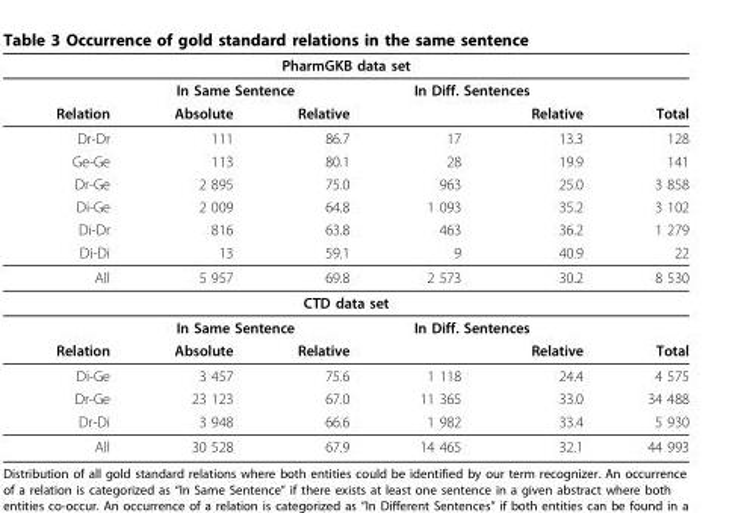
<table><thead><tr><td colspan="6">PharmGKB data set</td></tr><tr><td rowspan="2">Relation</td><td colspan="2">In Same Sentence</td><td colspan="2">In Diff. Sentences</td><td rowspan="2">Total</td></tr><tr><td>Absolute</td><td>Relative</td><td></td><td>Relative</td></tr></thead><tbody><tr><td>Dr-Dr</td><td>111</td><td>86.7</td><td>17</td><td>13.3</td><td>128</td></tr><tr><td>Ge-Ge</td><td>113</td><td>80.1</td><td>28</td><td>19.9</td><td>141</td></tr><tr><td>Dr-Ge</td><td>2 895</td><td>75.0</td><td>963</td><td>25.0</td><td>3 858</td></tr><tr><td>Di-Ge</td><td>2 009</td><td>64.8</td><td>1 093</td><td>35.2</td><td>3 102</td></tr><tr><td>Di-Dr</td><td>816</td><td>63.8</td><td>463</td><td>36.2</td><td>1 279</td></tr><tr><td>Di-Di</td><td>13</td><td>59.1</td><td>9</td><td>40.9</td><td>22</td></tr><tr><td>All</td><td>5 957</td><td>69.8</td><td>2 573</td><td>30.2</td><td>8 530</td></tr><tr><td colspan="6">CTD data set</td></tr><tr><td></td><td colspan="2">In Same Sentence</td><td colspan="2">In Diff. Sentences</td><td></td></tr><tr><td>Relation</td><td>Absolute</td><td>Relative</td><td></td><td>Relative</td><td>Total</td></tr><tr><td>Di-Ge</td><td>3 457</td><td>75.6</td><td>1 118</td><td>24.4</td><td>4 575</td></tr><tr><td>Dr-Ge</td><td>23 123</td><td>67.0</td><td>11 365</td><td>33.0</td><td>34 488</td></tr><tr><td>Dr-Di</td><td>3 948</td><td>66.6</td><td>1 982</td><td>33.4</td><td>5 930</td></tr><tr><td>All</td><td>30 528</td><td>67.9</td><td>14 465</td><td>32.1</td><td>44 993</td></tr></tbody></table>